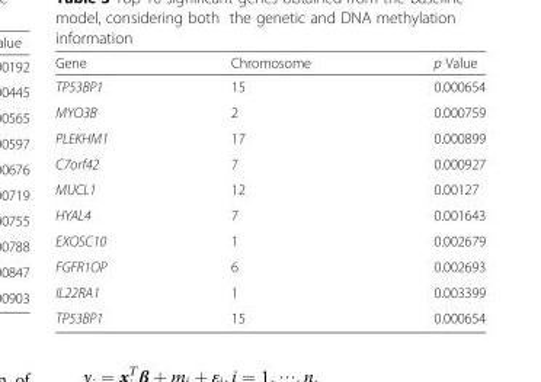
<table><thead><tr><td>Gene</td><td>Chromosome</td><td>p Value</td></tr></thead><tbody><tr><td>TP53BP1</td><td>15</td><td>0.000654</td></tr><tr><td>MYO3B</td><td>2</td><td>0.000759</td></tr><tr><td>PLEKHM1</td><td>17</td><td>0.000899</td></tr><tr><td>C7orf42</td><td>7</td><td>0.000927</td></tr><tr><td>MUCL1</td><td>12</td><td>0.00127</td></tr><tr><td>HYAL4</td><td>7</td><td>0.001643</td></tr><tr><td>EXOSC10</td><td>1</td><td>0.002679</td></tr><tr><td>FGFR1OP</td><td>6</td><td>0.002693</td></tr><tr><td>IL22RA1</td><td>1</td><td>0.003399</td></tr><tr><td>TP53BP1</td><td>15</td><td>0.000654</td></tr></tbody></table>